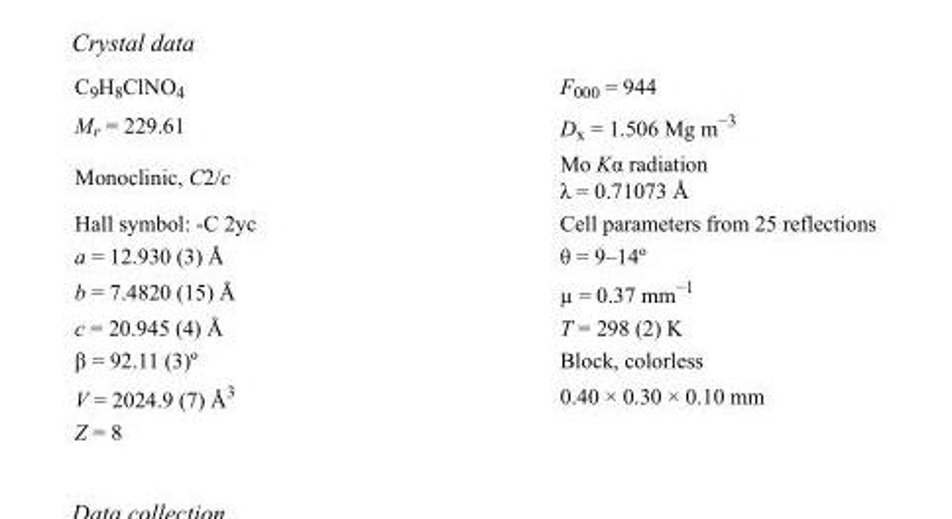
<table><tbody><tr><td>C<sub>9</sub>H<sub>8</sub>ClNO<sub>4</sub></td><td>F<sub>000</sub> = 944</td></tr><tr><td>M<sub>r</sub> = 229.61</td><td>D<sub>x</sub> = 1.506 Mg m<sup>−3</sup></td></tr><tr><td>Monoclinic, C2/c</td><td>Mo Kα radiation λ = 0.71073 Å</td></tr><tr><td>Hall symbol: -C 2yc</td><td>Cell parameters from 25 reflections</td></tr><tr><td>a = 12.930 (3) Å</td><td>θ = 9–14º</td></tr><tr><td>b = 7.4820 (15) Å</td><td>µ = 0.37 mm<sup>−1</sup></td></tr><tr><td>c = 20.945 (4) Å</td><td>T = 298 (2) K</td></tr><tr><td>β = 92.11 (3)º</td><td>Block, colorless</td></tr><tr><td>V = 2024.9 (7) Å<sup>3</sup></td><td>0.40 × 0.30 × 0.10 mm</td></tr><tr><td>Z = 8</td><td></td></tr></tbody></table>